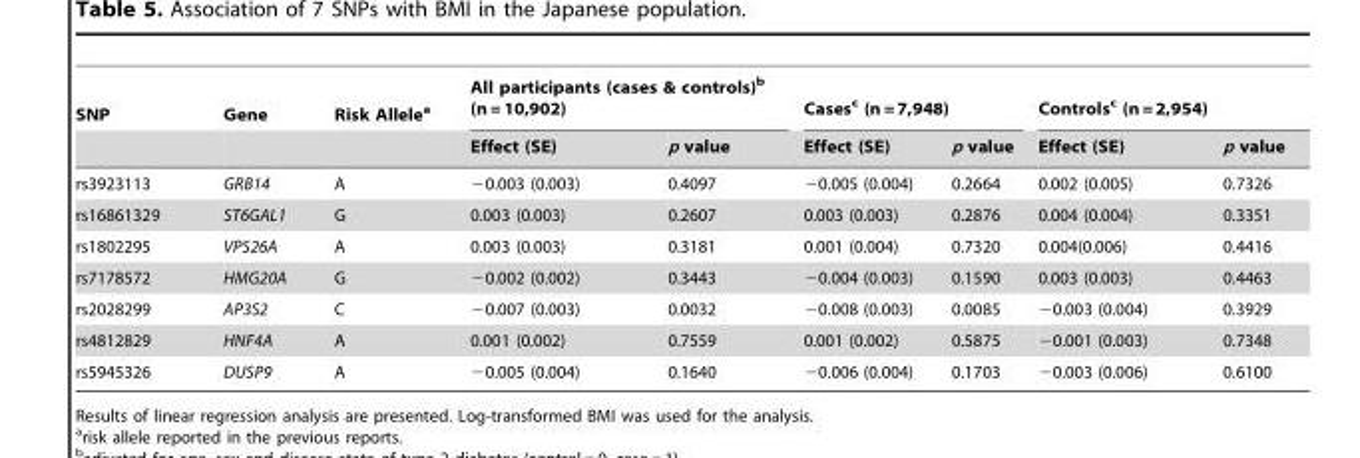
<table><thead><tr><td rowspan="2">SNP</td><td rowspan="2">Gene</td><td rowspan="2">Risk Allele<sup>a</sup></td><td colspan="2">All participants (cases &amp; controls)<sup>b</sup> (n = 10,902)</td><td colspan="2">Cases<sup>c</sup> (n = 7,948)</td><td colspan="2">Controls<sup>c</sup> (n = 2,954)</td></tr><tr><td>Effect (SE)</td><td>p value</td><td>Effect (SE)</td><td>p value</td><td>Effect (SE)</td><td>p value</td></tr></thead><tbody><tr><td>rs3923113</td><td>GRB14</td><td>A</td><td>−0.003 (0.003)</td><td>0.4097</td><td>−0.005 (0.004)</td><td>0.2664</td><td>0.002 (0.005)</td><td>0.7326</td></tr><tr><td>rs16861329</td><td>ST6GAL1</td><td>G</td><td>0.003 (0.003)</td><td>0.2607</td><td>0.003 (0.003)</td><td>0.2876</td><td>0.004 (0.004)</td><td>0.3351</td></tr><tr><td>rs1802295</td><td>VPS26A</td><td>A</td><td>0.003 (0.003)</td><td>0.3181</td><td>0.001 (0.004)</td><td>0.7320</td><td>0.004(0.006)</td><td>0.4416</td></tr><tr><td>rs7178572</td><td>HMG20A</td><td>G</td><td>−0.002 (0.002)</td><td>0.3443</td><td>−0.004 (0.003)</td><td>0.1590</td><td>0.003 (0.003)</td><td>0.4463</td></tr><tr><td>rs2028299</td><td>AP3S2</td><td>C</td><td>−0.007 (0.003)</td><td>0.0032</td><td>−0.008 (0.003)</td><td>0.0085</td><td>−0.003 (0.004)</td><td>0.3929</td></tr><tr><td>rs4812829</td><td>HNF4A</td><td>A</td><td>0.001 (0.002)</td><td>0.7559</td><td>0.001 (0.002)</td><td>0.5875</td><td>−0.001 (0.003)</td><td>0.7348</td></tr><tr><td>rs5945326</td><td>DUSP9</td><td>A</td><td>−0.005 (0.004)</td><td>0.1640</td><td>−0.006 (0.004)</td><td>0.1703</td><td>−0.003 (0.006)</td><td>0.6100</td></tr></tbody></table>